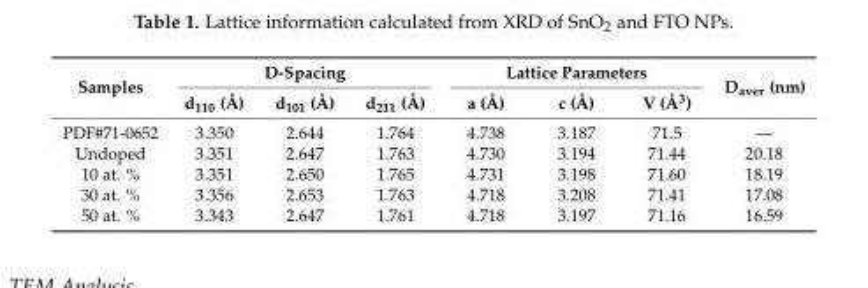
<table><thead><tr><td rowspan="2">Samples</td><td colspan="3">D-Spacing</td><td colspan="3">Lattice Parameters</td><td rowspan="2">D<sub>aver</sub> (nm)</td></tr><tr><td>d<sub>110</sub> (Å)</td><td>d<sub>101</sub> (Å)</td><td>d<sub>211</sub> (Å)</td><td>a (Å)</td><td>c (Å)</td><td>V (Å<sup>3</sup>)</td></tr></thead><tbody><tr><td>PDF#71-0652</td><td>3.350</td><td>2.644</td><td>1.764</td><td>4.738</td><td>3.187</td><td>71.5</td><td>—</td></tr><tr><td>Undoped</td><td>3.351</td><td>2.647</td><td>1.763</td><td>4.730</td><td>3.194</td><td>71.44</td><td>20.18</td></tr><tr><td>10 at. %</td><td>3.351</td><td>2.650</td><td>1.765</td><td>4.731</td><td>3.198</td><td>71.60</td><td>18.19</td></tr><tr><td>30 at. %</td><td>3.356</td><td>2.653</td><td>1.763</td><td>4.718</td><td>3.208</td><td>71.41</td><td>17.08</td></tr><tr><td>50 at. %</td><td>3.343</td><td>2.647</td><td>1.761</td><td>4.718</td><td>3.197</td><td>71.16</td><td>16.59</td></tr></tbody></table>